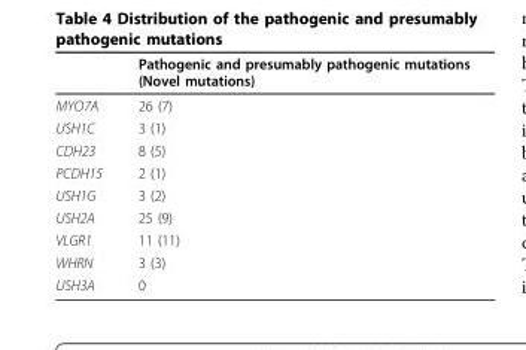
<table><thead><tr><td></td><td>Pathogenic and presumably pathogenic mutations (Novel mutations)</td></tr></thead><tbody><tr><td>MYO7A</td><td>26 (7)</td></tr><tr><td>USH1C</td><td>3 (1)</td></tr><tr><td>CDH23</td><td>8 (5)</td></tr><tr><td>PCDH15</td><td>2 (1)</td></tr><tr><td>USH1G</td><td>3 (2)</td></tr><tr><td>USH2A</td><td>25 (9)</td></tr><tr><td>VLGR1</td><td>11 (11)</td></tr><tr><td>WHRN</td><td>3 (3)</td></tr><tr><td>USH3A</td><td>0</td></tr></tbody></table>